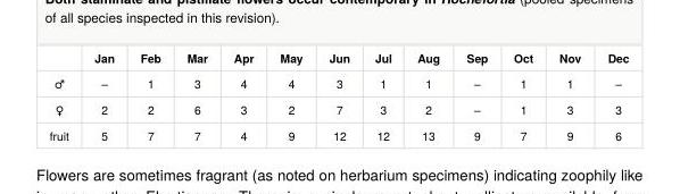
<table><thead><tr><td></td><td>Jan</td><td>Feb</td><td>Mar</td><td>Apr</td><td>May</td><td>Jun</td><td>Jul</td><td>Aug</td><td>Sep</td><td>Oct</td><td>Nov</td><td>Dec</td></tr></thead><tbody><tr><td>♂</td><td>–</td><td>1</td><td>3</td><td>4</td><td>4</td><td>3</td><td>1</td><td>1</td><td>–</td><td>1</td><td>1</td><td>–</td></tr><tr><td>♀</td><td>2</td><td>2</td><td>6</td><td>3</td><td>2</td><td>7</td><td>3</td><td>2</td><td>–</td><td>1</td><td>3</td><td>3</td></tr><tr><td>fruit</td><td>5</td><td>7</td><td>7</td><td>4</td><td>9</td><td>12</td><td>12</td><td>13</td><td>9</td><td>7</td><td>9</td><td>6</td></tr></tbody></table>